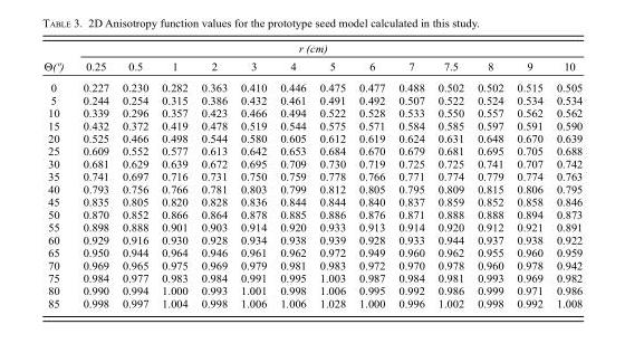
<table><thead><tr><td rowspan="2">Θ(º)</td><td colspan="13">r (cm)</td></tr><tr><td>0.25</td><td>0.5</td><td>1</td><td>2</td><td>3</td><td>4</td><td>5</td><td>6</td><td>7</td><td>7.5</td><td>8</td><td>9</td><td>10</td></tr></thead><tbody><tr><td>0</td><td>0.227</td><td>0.230</td><td>0.282</td><td>0.363</td><td>0.410</td><td>0.446</td><td>0.475</td><td>0.477</td><td>0.488</td><td>0.502</td><td>0.502</td><td>0.515</td><td>0.505</td></tr><tr><td>5</td><td>0.244</td><td>0.254</td><td>0.315</td><td>0.386</td><td>0.432</td><td>0.461</td><td>0.491</td><td>0.492</td><td>0.507</td><td>0.522</td><td>0.524</td><td>0.534</td><td>0.534</td></tr><tr><td>10</td><td>0.339</td><td>0.296</td><td>0.357</td><td>0.423</td><td>0.466</td><td>0.494</td><td>0.522</td><td>0.528</td><td>0.533</td><td>0.550</td><td>0.557</td><td>0.562</td><td>0.562</td></tr><tr><td>15</td><td>0.432</td><td>0.372</td><td>0.419</td><td>0.478</td><td>0.519</td><td>0.544</td><td>0.575</td><td>0.571</td><td>0.584</td><td>0.585</td><td>0.597</td><td>0.591</td><td>0.590</td></tr><tr><td>20</td><td>0.525</td><td>0.466</td><td>0.498</td><td>0.544</td><td>0.580</td><td>0.605</td><td>0.612</td><td>0.619</td><td>0.624</td><td>0.631</td><td>0.648</td><td>0.670</td><td>0.639</td></tr><tr><td>25</td><td>0.609</td><td>0.552</td><td>0.577</td><td>0.613</td><td>0.642</td><td>0.653</td><td>0.684</td><td>0.670</td><td>0.679</td><td>0.681</td><td>0.695</td><td>0.705</td><td>0.688</td></tr><tr><td>30</td><td>0.681</td><td>0.629</td><td>0.639</td><td>0.672</td><td>0.695</td><td>0.709</td><td>0.730</td><td>0.719</td><td>0.725</td><td>0.725</td><td>0.741</td><td>0.707</td><td>0.742</td></tr><tr><td>35</td><td>0.741</td><td>0.697</td><td>0.716</td><td>0.731</td><td>0.750</td><td>0.759</td><td>0.778</td><td>0.766</td><td>0.771</td><td>0.774</td><td>0.779</td><td>0.774</td><td>0.763</td></tr><tr><td>40</td><td>0.793</td><td>0.756</td><td>0.766</td><td>0.781</td><td>0.803</td><td>0.799</td><td>0.812</td><td>0.805</td><td>0.795</td><td>0.809</td><td>0.815</td><td>0.806</td><td>0.795</td></tr><tr><td>45</td><td>0.835</td><td>0.805</td><td>0.820</td><td>0.828</td><td>0.836</td><td>0.844</td><td>0.844</td><td>0.840</td><td>0.837</td><td>0.859</td><td>0.852</td><td>0.858</td><td>0.846</td></tr><tr><td>50</td><td>0.870</td><td>0.852</td><td>0.866</td><td>0.864</td><td>0.878</td><td>0.885</td><td>0.886</td><td>0.876</td><td>0.871</td><td>0.888</td><td>0.888</td><td>0.894</td><td>0.873</td></tr><tr><td>55</td><td>0.898</td><td>0.888</td><td>0.901</td><td>0.903</td><td>0.914</td><td>0.920</td><td>0.933</td><td>0.913</td><td>0.914</td><td>0.920</td><td>0.912</td><td>0.921</td><td>0.891</td></tr><tr><td>60</td><td>0.929</td><td>0.916</td><td>0.930</td><td>0.928</td><td>0.934</td><td>0.938</td><td>0.939</td><td>0.928</td><td>0.933</td><td>0.944</td><td>0.937</td><td>0.938</td><td>0.922</td></tr><tr><td>65</td><td>0.950</td><td>0.944</td><td>0.964</td><td>0.946</td><td>0.961</td><td>0.962</td><td>0.972</td><td>0.949</td><td>0.960</td><td>0.962</td><td>0.955</td><td>0.960</td><td>0.959</td></tr><tr><td>70</td><td>0.969</td><td>0.965</td><td>0.975</td><td>0.969</td><td>0.979</td><td>0.981</td><td>0.983</td><td>0.972</td><td>0.970</td><td>0.978</td><td>0.960</td><td>0.978</td><td>0.942</td></tr><tr><td>75</td><td>0.984</td><td>0.977</td><td>0.983</td><td>0.984</td><td>0.991</td><td>0.995</td><td>1.003</td><td>0.987</td><td>0.984</td><td>0.981</td><td>0.993</td><td>0.969</td><td>0.982</td></tr><tr><td>80</td><td>0.990</td><td>0.994</td><td>1.000</td><td>0.993</td><td>1.001</td><td>0.998</td><td>1.006</td><td>0.995</td><td>0.992</td><td>0.986</td><td>0.999</td><td>0.971</td><td>0.986</td></tr><tr><td>85</td><td>0.998</td><td>0.997</td><td>1.004</td><td>0.998</td><td>1.006</td><td>1.006</td><td>1.028</td><td>1.000</td><td>0.996</td><td>1.002</td><td>0.998</td><td>0.992</td><td>1.008</td></tr></tbody></table>